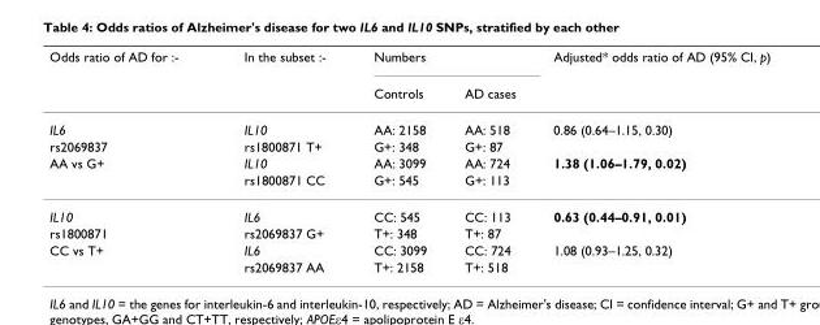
<table><thead><tr><td rowspan="2">Odds ratio of AD for :-</td><td rowspan="2">In the subset :-</td><td rowspan="2">Numbers Controls</td><td rowspan="2">AD cases</td><td rowspan="2">Adjusted* odds ratio of AD (95% CI, p)</td></tr><tr></tr></thead><tbody><tr><td>IL6</td><td>IL10</td><td>AA: 2158</td><td>AA: 518</td><td>0.86 (0.64–1.15, 0.30)</td></tr><tr><td>rs2069837</td><td>rs1800871 T+</td><td>G+: 348</td><td>G+: 87</td><td></td></tr><tr><td rowspan="2">AA vs G+</td><td>IL10</td><td>AA: 3099</td><td>AA: 724</td><td>1.38 (1.06–1.79, 0.02)</td></tr><tr><td>rs1800871 CC</td><td>G+: 545</td><td>G+: 113</td><td></td></tr><tr><td>IL10</td><td>IL6</td><td>CC: 545</td><td>CC: 113</td><td>0.63 (0.44–0.91, 0.01)</td></tr><tr><td>rs1800871</td><td>rs2069837 G+</td><td>T+: 348</td><td>T+: 87</td><td></td></tr><tr><td rowspan="2">CC vs T+</td><td>IL6</td><td>CC: 3099</td><td>CC: 724</td><td>1.08 (0.93–1.25, 0.32)</td></tr><tr><td>rs2069837 AA</td><td>T+: 2158</td><td>T+: 518</td><td></td></tr></tbody></table>